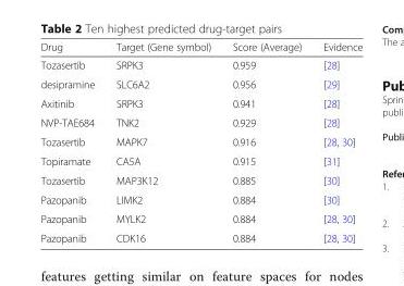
<table><thead><tr><td>Drug</td><td>Target (Gene symbol)</td><td>Score (Average)</td><td>Evidence</td></tr></thead><tbody><tr><td>Tozasertib</td><td>SRPK3</td><td>0.959</td><td>[28]</td></tr><tr><td>desipramine</td><td>SLC6A2</td><td>0.956</td><td>[29]</td></tr><tr><td>Axitinib</td><td>SRPK3</td><td>0.941</td><td>[28]</td></tr><tr><td>NVP-TAE684</td><td>TNK2</td><td>0.929</td><td>[28]</td></tr><tr><td>Tozasertib</td><td>MAPK7</td><td>0.916</td><td>[28, 30]</td></tr><tr><td>Topiramate</td><td>CA5A</td><td>0.915</td><td>[31]</td></tr><tr><td>Tozasertib</td><td>MAP3K12</td><td>0.885</td><td>[30]</td></tr><tr><td>Pazopanib</td><td>LIMK2</td><td>0.884</td><td>[30]</td></tr><tr><td>Pazopanib</td><td>MYLK2</td><td>0.884</td><td>[28, 30]</td></tr><tr><td>Pazopanib</td><td>CDK16</td><td>0.884</td><td>[28, 30]</td></tr></tbody></table>